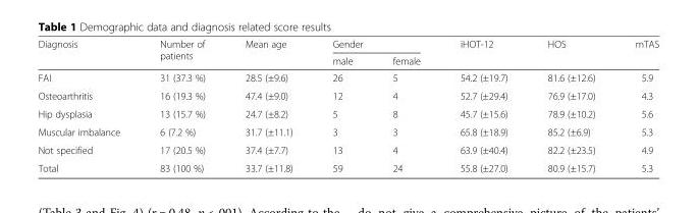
<table><thead><tr><td rowspan="2">Diagnosis</td><td rowspan="2">Number of patients</td><td rowspan="2">Mean age</td><td colspan="2">Gender</td><td rowspan="2">iHOT-12</td><td rowspan="2">HOS</td><td rowspan="2">mTAS</td></tr><tr><td>male</td><td>female</td></tr></thead><tbody><tr><td>FAI</td><td>31 (37.3 %)</td><td>28.5 (±9.6)</td><td>26</td><td>5</td><td>54.2 (±19.7)</td><td>81.6 (±12.6)</td><td>5.9</td></tr><tr><td>Osteoarthritis</td><td>16 (19.3 %)</td><td>47.4 (±9.0)</td><td>12</td><td>4</td><td>52.7 (±29.4)</td><td>76.9 (±17.0)</td><td>4.3</td></tr><tr><td>Hip dysplasia</td><td>13 (15.7 %)</td><td>24.7 (±8.2)</td><td>5</td><td>8</td><td>45.7 (±15.6)</td><td>78.9 (±10.2)</td><td>5.6</td></tr><tr><td>Muscular imbalance</td><td>6 (7.2 %)</td><td>31.7 (±11.1)</td><td>3</td><td>3</td><td>65.8 (±18.9)</td><td>85.2 (±6.9)</td><td>5.3</td></tr><tr><td>Not specified</td><td>17 (20.5 %)</td><td>37.4 (±7.7)</td><td>13</td><td>4</td><td>63.9 (±40.4)</td><td>82.2 (±23.5)</td><td>4.9</td></tr><tr><td>Total</td><td>83 (100 %)</td><td>33.7 (±11.8)</td><td>59</td><td>24</td><td>55.8 (±27.0)</td><td>80.9 (±15.7)</td><td>5.3</td></tr></tbody></table>